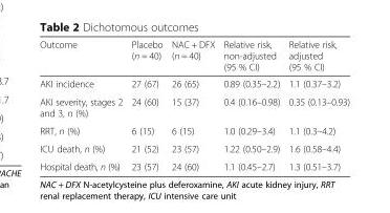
<table><thead><tr><td>Outcome</td><td>Placebo (n = 40)</td><td>NAC + DFX (n = 40)</td><td>Relative risk, non-adjusted (95 % CI)</td><td>Relative risk, adjusted (95 % CI)</td></tr></thead><tbody><tr><td>AKI incidence</td><td>27 (67)</td><td>26 (65)</td><td>0.89 (0.35–2.2)</td><td>1.1 (0.37–3.2)</td></tr><tr><td>AKI severity, stages 2 and 3, n (%)</td><td>24 (60)</td><td>15 (37)</td><td>0.4 (0.16–0.98)</td><td>0.35 (0.13–0.93)</td></tr><tr><td>RRT, n (%)</td><td>6 (15)</td><td>6 (15)</td><td>1.0 (0.29–3.4)</td><td>1.1 (0.3–4.2)</td></tr><tr><td>ICU death, n (%)</td><td>21 (52)</td><td>23 (57)</td><td>1.22 (0.50–2.9)</td><td>1.6 (0.58–4.4)</td></tr><tr><td>Hospital death, n (%)</td><td>23 (57)</td><td>24 (60)</td><td>1.1 (0.45–2.7)</td><td>1.3 (0.51–3.7)</td></tr></tbody></table>